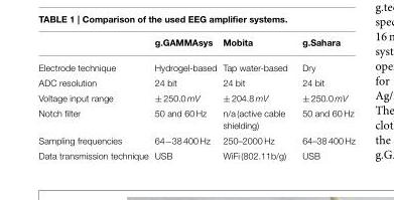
<table><thead><tr><td></td><td>g.GAMMAsys</td><td>Mobita</td><td>g.Sahara</td></tr></thead><tbody><tr><td>Electrode technique</td><td>Hydrogel-based</td><td>Tap water-based</td><td>Dry</td></tr><tr><td>ADC resolution</td><td>24 bit</td><td>24 bit</td><td>24 bit</td></tr><tr><td>Voltage input range</td><td>± 250.0 mV</td><td>± 204.8 mV</td><td>± 250.0 mV</td></tr><tr><td>Notch filter</td><td>50 and 60 Hz</td><td>n/a (active cable shielding)</td><td>50 and 60 Hz</td></tr><tr><td>Sampling frequencies</td><td>64−38 400 Hz</td><td>250–2000 Hz</td><td>64–38 400 Hz</td></tr><tr><td>Data transmission technique</td><td>USB</td><td>WiFi (802.11b/g)</td><td>USB</td></tr></tbody></table>